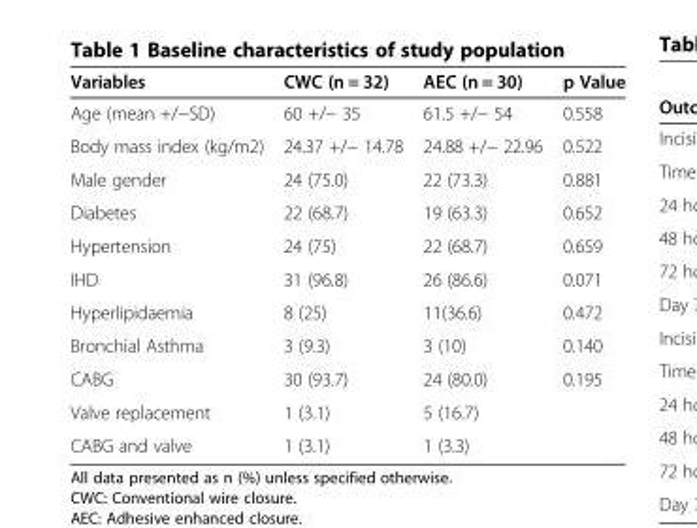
<table><thead><tr><td>Variables</td><td>CWC (n = 32)</td><td>AEC (n = 30)</td><td>p Value</td></tr></thead><tbody><tr><td>Age (mean +/−SD)</td><td>60 +/− 35</td><td>61.5 +/− 54</td><td>0.558</td></tr><tr><td>Body mass index (kg/m2)</td><td>24.37 +/− 14.78</td><td>24.88 +/− 22.96</td><td>0.522</td></tr><tr><td>Male gender</td><td>24 (75.0)</td><td>22 (73.3)</td><td>0.881</td></tr><tr><td>Diabetes</td><td>22 (68.7)</td><td>19 (63.3)</td><td>0.652</td></tr><tr><td>Hypertension</td><td>24 (75)</td><td>22 (68.7)</td><td>0.659</td></tr><tr><td>IHD</td><td>31 (96.8)</td><td>26 (86.6)</td><td>0.071</td></tr><tr><td>Hyperlipidaemia</td><td>8 (25)</td><td>11(36.6)</td><td>0.472</td></tr><tr><td>Bronchial Asthma</td><td>3 (9.3)</td><td>3 (10)</td><td>0.140</td></tr><tr><td>CABG</td><td>30 (93.7)</td><td>24 (80.0)</td><td>0.195</td></tr><tr><td>Valve replacement</td><td>1 (3.1)</td><td>5 (16.7)</td><td></td></tr><tr><td>CABG and valve</td><td>1 (3.1)</td><td>1 (3.3)</td><td></td></tr></tbody></table>